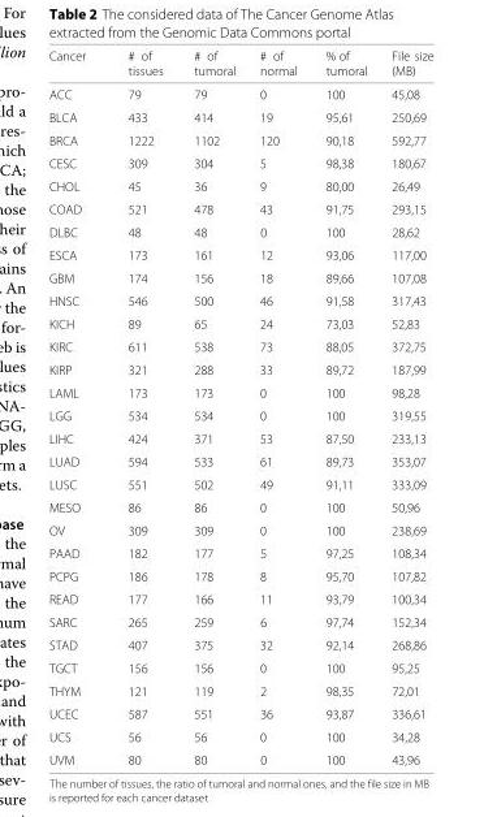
<table><thead><tr><td>Cancer</td><td># of tissues</td><td># of tumoral</td><td># of normal</td><td>% of tumoral</td><td>File size (MB)</td></tr></thead><tbody><tr><td>ACC</td><td>79</td><td>79</td><td>0</td><td>100</td><td>45,08</td></tr><tr><td>BLCA</td><td>433</td><td>414</td><td>19</td><td>95,61</td><td>250,69</td></tr><tr><td>BRCA</td><td>1222</td><td>1102</td><td>120</td><td>90,18</td><td>592,77</td></tr><tr><td>CESC</td><td>309</td><td>304</td><td>5</td><td>98,38</td><td>180,67</td></tr><tr><td>CHOL</td><td>45</td><td>36</td><td>9</td><td>80,00</td><td>26,49</td></tr><tr><td>COAD</td><td>521</td><td>478</td><td>43</td><td>91,75</td><td>293,15</td></tr><tr><td>DLBC</td><td>48</td><td>48</td><td>0</td><td>100</td><td>28,62</td></tr><tr><td>ESCA</td><td>173</td><td>161</td><td>12</td><td>93,06</td><td>117,00</td></tr><tr><td>GBM</td><td>174</td><td>156</td><td>18</td><td>89,66</td><td>107,08</td></tr><tr><td>HNSC</td><td>546</td><td>500</td><td>46</td><td>91,58</td><td>317,43</td></tr><tr><td>KICH</td><td>89</td><td>65</td><td>24</td><td>73,03</td><td>52,83</td></tr><tr><td>KIRC</td><td>611</td><td>538</td><td>73</td><td>88,05</td><td>372,75</td></tr><tr><td>KIRP</td><td>321</td><td>288</td><td>33</td><td>89,72</td><td>187,99</td></tr><tr><td>LAML</td><td>173</td><td>173</td><td>0</td><td>100</td><td>98,28</td></tr><tr><td>LGG</td><td>534</td><td>534</td><td>0</td><td>100</td><td>319,55</td></tr><tr><td>LIHC</td><td>424</td><td>371</td><td>53</td><td>87,50</td><td>233,13</td></tr><tr><td>LUAD</td><td>594</td><td>533</td><td>61</td><td>89,73</td><td>353,07</td></tr><tr><td>LUSC</td><td>551</td><td>502</td><td>49</td><td>91,11</td><td>333,09</td></tr><tr><td>MESO</td><td>86</td><td>86</td><td>0</td><td>100</td><td>50,96</td></tr><tr><td>OV</td><td>309</td><td>309</td><td>0</td><td>100</td><td>238,69</td></tr><tr><td>PAAD</td><td>182</td><td>177</td><td>5</td><td>97,25</td><td>108,34</td></tr><tr><td>PCPG</td><td>186</td><td>178</td><td>8</td><td>95,70</td><td>107,82</td></tr><tr><td>READ</td><td>177</td><td>166</td><td>11</td><td>93,79</td><td>100,34</td></tr><tr><td>SARC</td><td>265</td><td>259</td><td>6</td><td>97,74</td><td>152,34</td></tr><tr><td>STAD</td><td>407</td><td>375</td><td>32</td><td>92,14</td><td>268,86</td></tr><tr><td>TGCT</td><td>156</td><td>156</td><td>0</td><td>100</td><td>95,25</td></tr><tr><td>THYM</td><td>121</td><td>119</td><td>2</td><td>98,35</td><td>72,01</td></tr><tr><td>UCEC</td><td>587</td><td>551</td><td>36</td><td>93,87</td><td>336,61</td></tr><tr><td>UCS</td><td>56</td><td>56</td><td>0</td><td>100</td><td>34,28</td></tr><tr><td>UVM</td><td>80</td><td>80</td><td>0</td><td>100</td><td>43,96</td></tr></tbody></table>